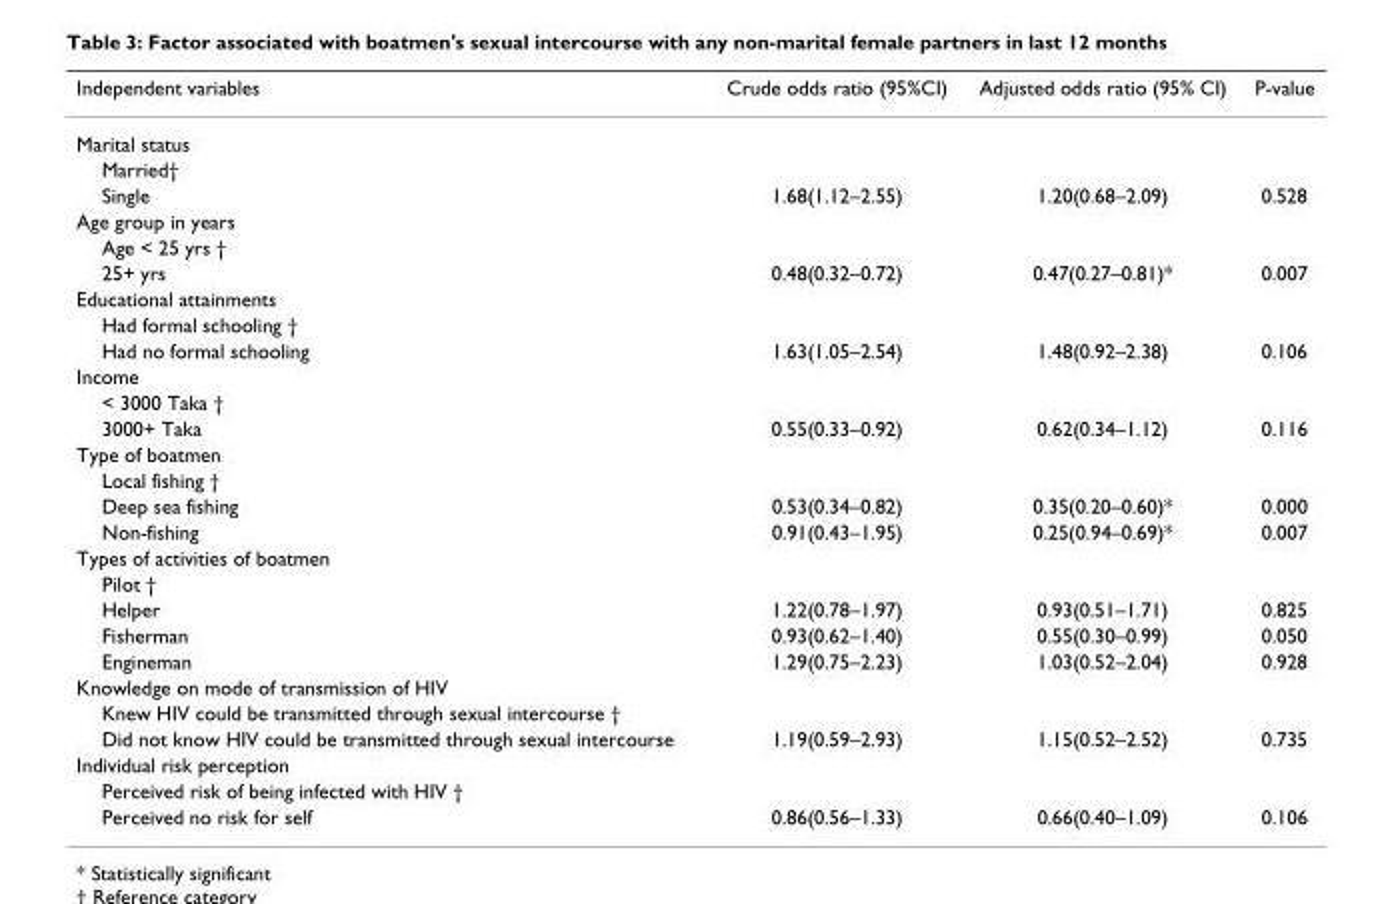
<table><thead><tr><td>Independent variables</td><td>Crude odds ratio (95%CI)</td><td>Adjusted odds ratio (95% CI)</td><td>P-value</td></tr></thead><tbody><tr><td colspan="4">Marital status</td></tr><tr><td colspan="4">Married†</td></tr><tr><td>Single</td><td>1.68(1.12–2.55)</td><td>1.20(0.68–2.09)</td><td>0.528</td></tr><tr><td colspan="4">Age group in years</td></tr><tr><td colspan="4">Age &lt; 25 yrs †</td></tr><tr><td>25+ yrs</td><td>0.48(0.32–0.72)</td><td>0.47(0.27–0.81)*</td><td>0.007</td></tr><tr><td colspan="4">Educational attainments</td></tr><tr><td colspan="4">Had formal schooling †</td></tr><tr><td>Had no formal schooling</td><td>1.63(1.05–2.54)</td><td>1.48(0.92–2.38)</td><td>0.106</td></tr><tr><td colspan="4">Income</td></tr><tr><td colspan="4">&lt; 3000 Taka †</td></tr><tr><td>3000+ Taka</td><td>0.55(0.33–0.92)</td><td>0.62(0.34–1.12)</td><td>0.116</td></tr><tr><td colspan="4">Type of boatmen</td></tr><tr><td colspan="4">Local fishing †</td></tr><tr><td>Deep sea fishing</td><td>0.53(0.34–0.82)</td><td>0.35(0.20–0.60)*</td><td>0.000</td></tr><tr><td>Non-fishing</td><td>0.91(0.43–1.95)</td><td>0.25(0.94–0.69)*</td><td>0.007</td></tr><tr><td colspan="4">Types of activities of boatmen</td></tr><tr><td colspan="4">Pilot †</td></tr><tr><td>Helper</td><td>1.22(0.78–1.97)</td><td>0.93(0.51–1.71)</td><td>0.825</td></tr><tr><td>Fisherman</td><td>0.93(0.62–1.40)</td><td>0.55(0.30–0.99)</td><td>0.050</td></tr><tr><td>Engineman</td><td>1.29(0.75–2.23)</td><td>1.03(0.52–2.04)</td><td>0.928</td></tr><tr><td colspan="4">Knowledge on mode of transmission of HIV</td></tr><tr><td colspan="4">Knew HIV could be transmitted through sexual intercourse †</td></tr><tr><td>Did not know HIV could be transmitted through sexual intercourse</td><td>1.19(0.59–2.93)</td><td>1.15(0.52–2.52)</td><td>0.735</td></tr><tr><td colspan="4">Individual risk perception</td></tr><tr><td colspan="4">Perceived risk of being infected with HIV †</td></tr><tr><td>Perceived no risk for self</td><td>0.86(0.56–1.33)</td><td>0.66(0.40–1.09)</td><td>0.106</td></tr></tbody></table>